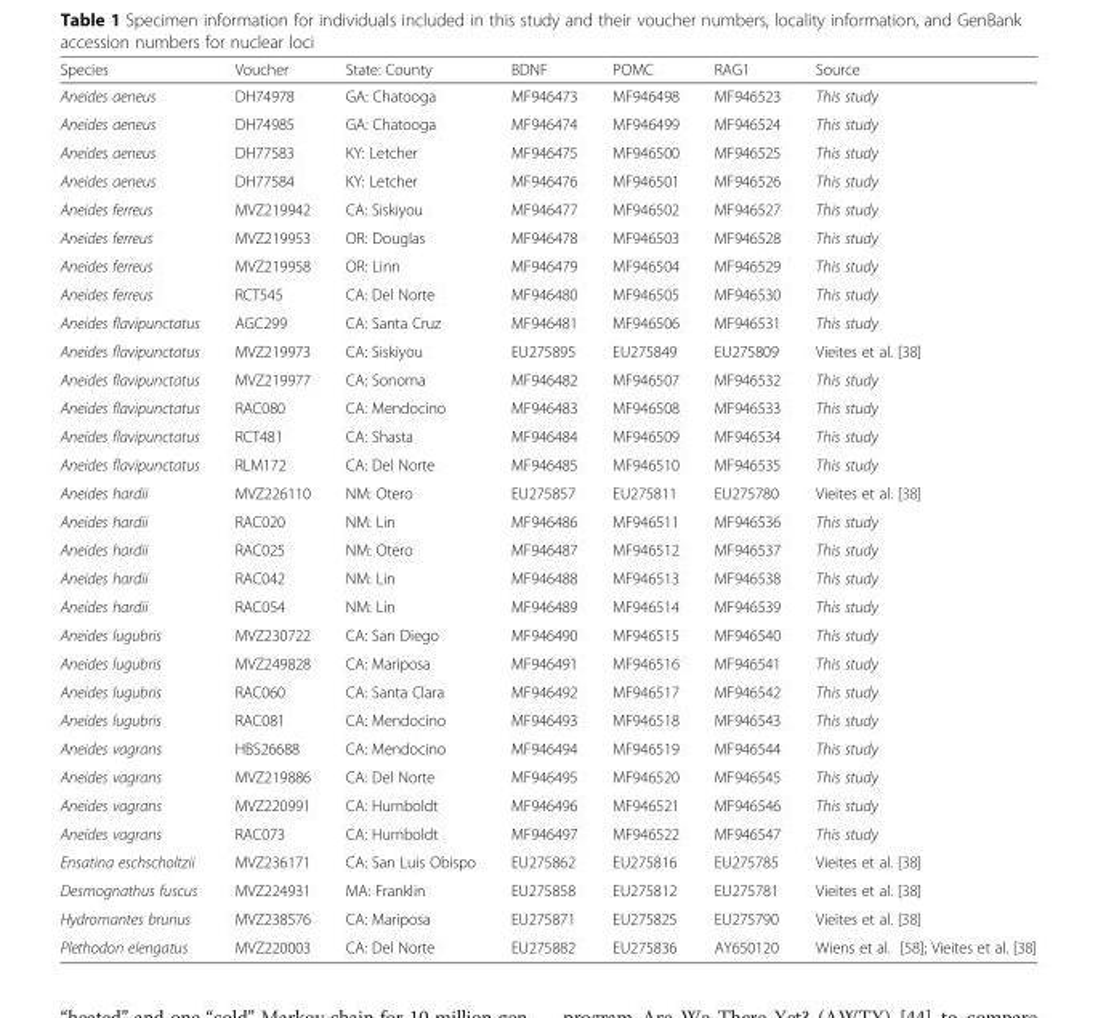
<table><thead><tr><td>Species</td><td>Voucher</td><td>State: County</td><td>BDNF</td><td>POMC</td><td>RAG1</td><td>Source</td></tr></thead><tbody><tr><td>Aneides aeneus</td><td>DH74978</td><td>GA: Chatooga</td><td>MF946473</td><td>MF946498</td><td>MF946523</td><td>This study</td></tr><tr><td>Aneides aeneus</td><td>DH74985</td><td>GA: Chatooga</td><td>MF946474</td><td>MF946499</td><td>MF946524</td><td>This study</td></tr><tr><td>Aneides aeneus</td><td>DH77583</td><td>KY: Letcher</td><td>MF946475</td><td>MF946500</td><td>MF946525</td><td>This study</td></tr><tr><td>Aneides aeneus</td><td>DH77584</td><td>KY: Letcher</td><td>MF946476</td><td>MF946501</td><td>MF946526</td><td>This study</td></tr><tr><td>Aneides ferreus</td><td>MVZ219942</td><td>CA: Siskiyou</td><td>MF946477</td><td>MF946502</td><td>MF946527</td><td>This study</td></tr><tr><td>Aneides ferreus</td><td>MVZ219953</td><td>OR: Douglas</td><td>MF946478</td><td>MF946503</td><td>MF946528</td><td>This study</td></tr><tr><td>Aneides ferreus</td><td>MVZ219958</td><td>OR: Linn</td><td>MF946479</td><td>MF946504</td><td>MF946529</td><td>This study</td></tr><tr><td>Aneides ferreus</td><td>RCT545</td><td>CA: Del Norte</td><td>MF946480</td><td>MF946505</td><td>MF946530</td><td>This study</td></tr><tr><td>Aneides flavipunctatus</td><td>AGC299</td><td>CA: Santa Cruz</td><td>MF946481</td><td>MF946506</td><td>MF946531</td><td>This study</td></tr><tr><td>Aneides flavipunctatus</td><td>MVZ219973</td><td>CA: Siskiyou</td><td>EU275895</td><td>EU275849</td><td>EU275809</td><td>Vieites et al. [38]</td></tr><tr><td>Aneides flavipunctatus</td><td>MVZ219977</td><td>CA: Sonoma</td><td>MF946482</td><td>MF946507</td><td>MF946532</td><td>This study</td></tr><tr><td>Aneides flavipunctatus</td><td>RAC080</td><td>CA: Mendocino</td><td>MF946483</td><td>MF946508</td><td>MF946533</td><td>This study</td></tr><tr><td>Aneides flavipunctatus</td><td>RCT481</td><td>CA: Shasta</td><td>MF946484</td><td>MF946509</td><td>MF946534</td><td>This study</td></tr><tr><td>Aneides flavipunctatus</td><td>RLM172</td><td>CA: Del Norte</td><td>MF946485</td><td>MF946510</td><td>MF946535</td><td>This study</td></tr><tr><td>Aneides hardii</td><td>MVZ226110</td><td>NM: Otero</td><td>EU275857</td><td>EU275811</td><td>EU275780</td><td>Vieites et al. [38]</td></tr><tr><td>Aneides hardii</td><td>RAC020</td><td>NM: Lin</td><td>MF946486</td><td>MF946511</td><td>MF946536</td><td>This study</td></tr><tr><td>Aneides hardii</td><td>RAC025</td><td>NM: Otero</td><td>MF946487</td><td>MF946512</td><td>MF946537</td><td>This study</td></tr><tr><td>Aneides hardii</td><td>RAC042</td><td>NM: Lin</td><td>MF946488</td><td>MF946513</td><td>MF946538</td><td>This study</td></tr><tr><td>Aneides hardii</td><td>RAC054</td><td>NM: Lin</td><td>MF946489</td><td>MF946514</td><td>MF946539</td><td>This study</td></tr><tr><td>Aneides lugubris</td><td>MVZ230722</td><td>CA: San Diego</td><td>MF946490</td><td>MF946515</td><td>MF946540</td><td>This study</td></tr><tr><td>Aneides lugubris</td><td>MVZ249828</td><td>CA: Mariposa</td><td>MF946491</td><td>MF946516</td><td>MF946541</td><td>This study</td></tr><tr><td>Aneides lugubris</td><td>RAC060</td><td>CA: Santa Clara</td><td>MF946492</td><td>MF946517</td><td>MF946542</td><td>This study</td></tr><tr><td>Aneides lugubris</td><td>RAC081</td><td>CA: Mendocino</td><td>MF946493</td><td>MF946518</td><td>MF946543</td><td>This study</td></tr><tr><td>Aneides vagrans</td><td>HBS26688</td><td>CA: Mendocino</td><td>MF946494</td><td>MF946519</td><td>MF946544</td><td>This study</td></tr><tr><td>Aneides vagrans</td><td>MVZ219886</td><td>CA: Del Norte</td><td>MF946495</td><td>MF946520</td><td>MF946545</td><td>This study</td></tr><tr><td>Aneides vagrans</td><td>MVZ220991</td><td>CA: Humboldt</td><td>MF946496</td><td>MF946521</td><td>MF946546</td><td>This study</td></tr><tr><td>Aneides vagrans</td><td>RAC073</td><td>CA: Humboldt</td><td>MF946497</td><td>MF946522</td><td>MF946547</td><td>This study</td></tr><tr><td>Ensatina eschscholtzii</td><td>MVZ236171</td><td>CA: San Luis Obispo</td><td>EU275862</td><td>EU275816</td><td>EU275785</td><td>Vieites et al. [38]</td></tr><tr><td>Desmognathus fuscus</td><td>MVZ224931</td><td>MA: Franklin</td><td>EU275858</td><td>EU275812</td><td>EU275781</td><td>Vieites et al. [38]</td></tr><tr><td>Hydromantes brunus</td><td>MVZ238576</td><td>CA: Mariposa</td><td>EU275871</td><td>EU275825</td><td>EU275790</td><td>Vieites et al. [38]</td></tr><tr><td>Plethodon elengatus</td><td>MVZ220003</td><td>CA: Del Norte</td><td>EU275882</td><td>EU275836</td><td>AY650120</td><td>Wiens et al. [58]; Vieites et al. [38]</td></tr></tbody></table>